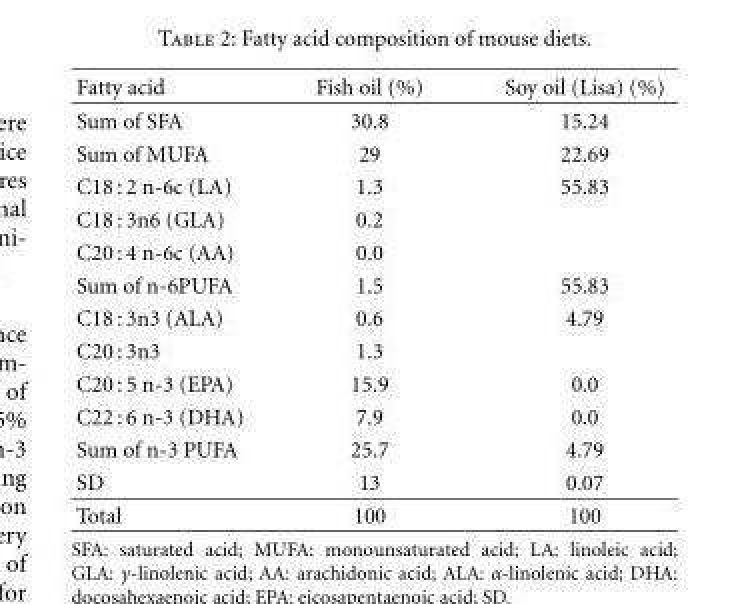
<table><thead><tr><td>Fatty acid</td><td>Fish oil (%)</td><td>Soy oil (Lisa) (%)</td></tr></thead><tbody><tr><td>Sum of SFA</td><td>30.8</td><td>15.24</td></tr><tr><td>Sum of MUFA</td><td>29</td><td>22.69</td></tr><tr><td>C18 : 2 n-6c (LA)</td><td>1.3</td><td>55.83</td></tr><tr><td>C18 : 3n6 (GLA)</td><td>0.2</td><td></td></tr><tr><td>C20 : 4 n-6c (AA)</td><td>0.0</td><td></td></tr><tr><td>Sum of n-6PUFA</td><td>1.5</td><td>55.83</td></tr><tr><td>C18 : 3n3 (ALA)</td><td>0.6</td><td>4.79</td></tr><tr><td>C20 : 3n3</td><td>1.3</td><td></td></tr><tr><td>C20 : 5 n-3 (EPA)</td><td>15.9</td><td>0.0</td></tr><tr><td>C22 : 6 n-3 (DHA)</td><td>7.9</td><td>0.0</td></tr><tr><td>Sum of n-3 PUFA</td><td>25.7</td><td>4.79</td></tr><tr><td>SD</td><td>13</td><td>0.07</td></tr><tr><td>Total</td><td>100</td><td>100</td></tr></tbody></table>